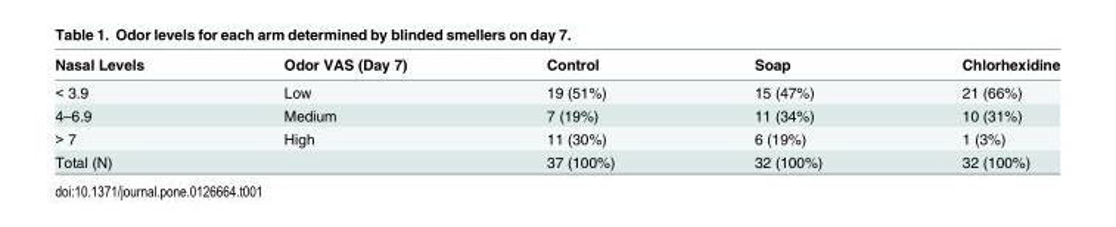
<table><thead><tr><td>Nasal Levels</td><td>Odor VAS (Day 7)</td><td>Control</td><td>Soap</td><td>Chlorhexidine</td></tr></thead><tbody><tr><td>&lt; 3.9</td><td>Low</td><td>19 (51%)</td><td>15 (47%)</td><td>21 (66%)</td></tr><tr><td>4–6.9</td><td>Medium</td><td>7 (19%)</td><td>11 (34%)</td><td>10 (31%)</td></tr><tr><td>&gt; 7</td><td>High</td><td>11 (30%)</td><td>6 (19%)</td><td>1 (3%)</td></tr><tr><td>Total (N)</td><td></td><td>37 (100%)</td><td>32 (100%)</td><td>32 (100%)</td></tr></tbody></table>